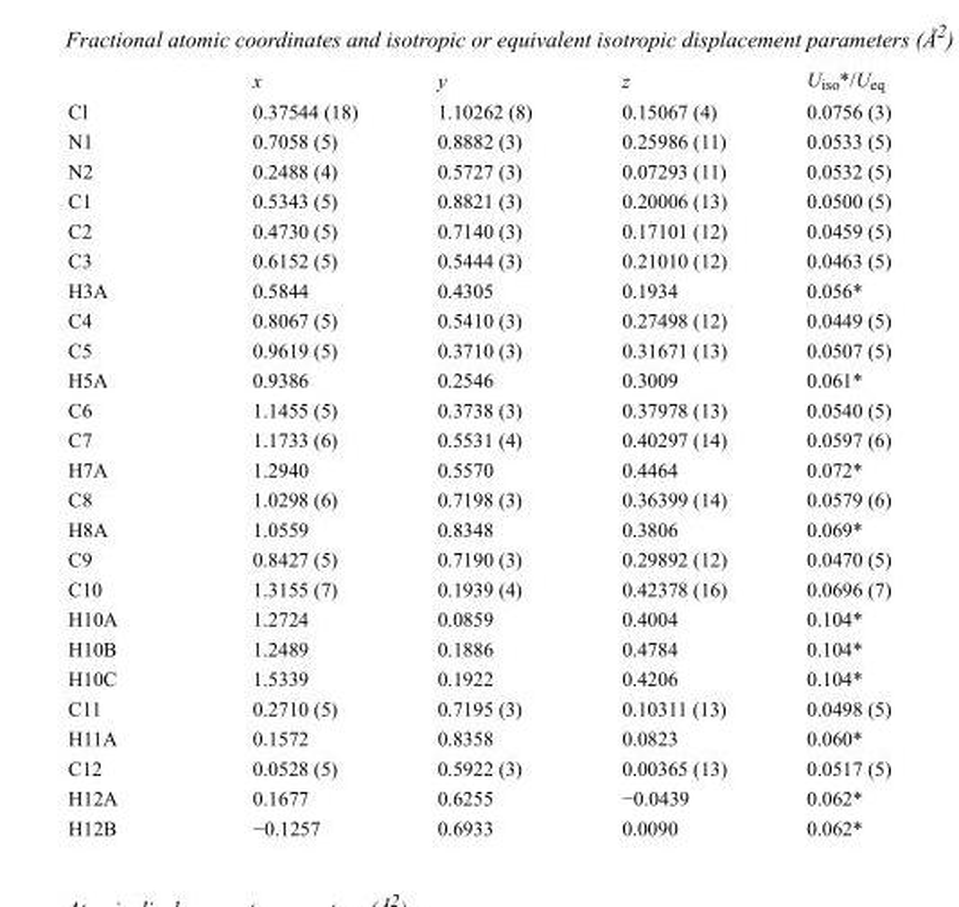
<table><thead><tr><td></td><td>x</td><td>y</td><td>z</td><td>U<sub>iso</sub>*/U<sub>eq</sub></td></tr></thead><tbody><tr><td>Cl</td><td>0.37544 (18)</td><td>1.10262 (8)</td><td>0.15067 (4)</td><td>0.0756 (3)</td></tr><tr><td>N1</td><td>0.7058 (5)</td><td>0.8882 (3)</td><td>0.25986 (11)</td><td>0.0533 (5)</td></tr><tr><td>N2</td><td>0.2488 (4)</td><td>0.5727 (3)</td><td>0.07293 (11)</td><td>0.0532 (5)</td></tr><tr><td>C1</td><td>0.5343 (5)</td><td>0.8821 (3)</td><td>0.20006 (13)</td><td>0.0500 (5)</td></tr><tr><td>C2</td><td>0.4730 (5)</td><td>0.7140 (3)</td><td>0.17101 (12)</td><td>0.0459 (5)</td></tr><tr><td>C3</td><td>0.6152 (5)</td><td>0.5444 (3)</td><td>0.21010 (12)</td><td>0.0463 (5)</td></tr><tr><td>H3A</td><td>0.5844</td><td>0.4305</td><td>0.1934</td><td>0.056*</td></tr><tr><td>C4</td><td>0.8067 (5)</td><td>0.5410 (3)</td><td>0.27498 (12)</td><td>0.0449 (5)</td></tr><tr><td>C5</td><td>0.9619 (5)</td><td>0.3710 (3)</td><td>0.31671 (13)</td><td>0.0507 (5)</td></tr><tr><td>H5A</td><td>0.9386</td><td>0.2546</td><td>0.3009</td><td>0.061*</td></tr><tr><td>C6</td><td>1.1455 (5)</td><td>0.3738 (3)</td><td>0.37978 (13)</td><td>0.0540 (5)</td></tr><tr><td>C7</td><td>1.1733 (6)</td><td>0.5531 (4)</td><td>0.40297 (14)</td><td>0.0597 (6)</td></tr><tr><td>H7A</td><td>1.2940</td><td>0.5570</td><td>0.4464</td><td>0.072*</td></tr><tr><td>C8</td><td>1.0298 (6)</td><td>0.7198 (3)</td><td>0.36399 (14)</td><td>0.0579 (6)</td></tr><tr><td>H8A</td><td>1.0559</td><td>0.8348</td><td>0.3806</td><td>0.069*</td></tr><tr><td>C9</td><td>0.8427 (5)</td><td>0.7190 (3)</td><td>0.29892 (12)</td><td>0.0470 (5)</td></tr><tr><td>C10</td><td>1.3155 (7)</td><td>0.1939 (4)</td><td>0.42378 (16)</td><td>0.0696 (7)</td></tr><tr><td>H10A</td><td>1.2724</td><td>0.0859</td><td>0.4004</td><td>0.104*</td></tr><tr><td>H10B</td><td>1.2489</td><td>0.1886</td><td>0.4784</td><td>0.104*</td></tr><tr><td>H10C</td><td>1.5339</td><td>0.1922</td><td>0.4206</td><td>0.104*</td></tr><tr><td>C11</td><td>0.2710 (5)</td><td>0.7195 (3)</td><td>0.10311 (13)</td><td>0.0498 (5)</td></tr><tr><td>H11A</td><td>0.1572</td><td>0.8358</td><td>0.0823</td><td>0.060*</td></tr><tr><td>C12</td><td>0.0528 (5)</td><td>0.5922 (3)</td><td>0.00365 (13)</td><td>0.0517 (5)</td></tr><tr><td>H12A</td><td>0.1677</td><td>0.6255</td><td>−0.0439</td><td>0.062*</td></tr><tr><td>H12B</td><td>−0.1257</td><td>0.6933</td><td>0.0090</td><td>0.062*</td></tr></tbody></table>